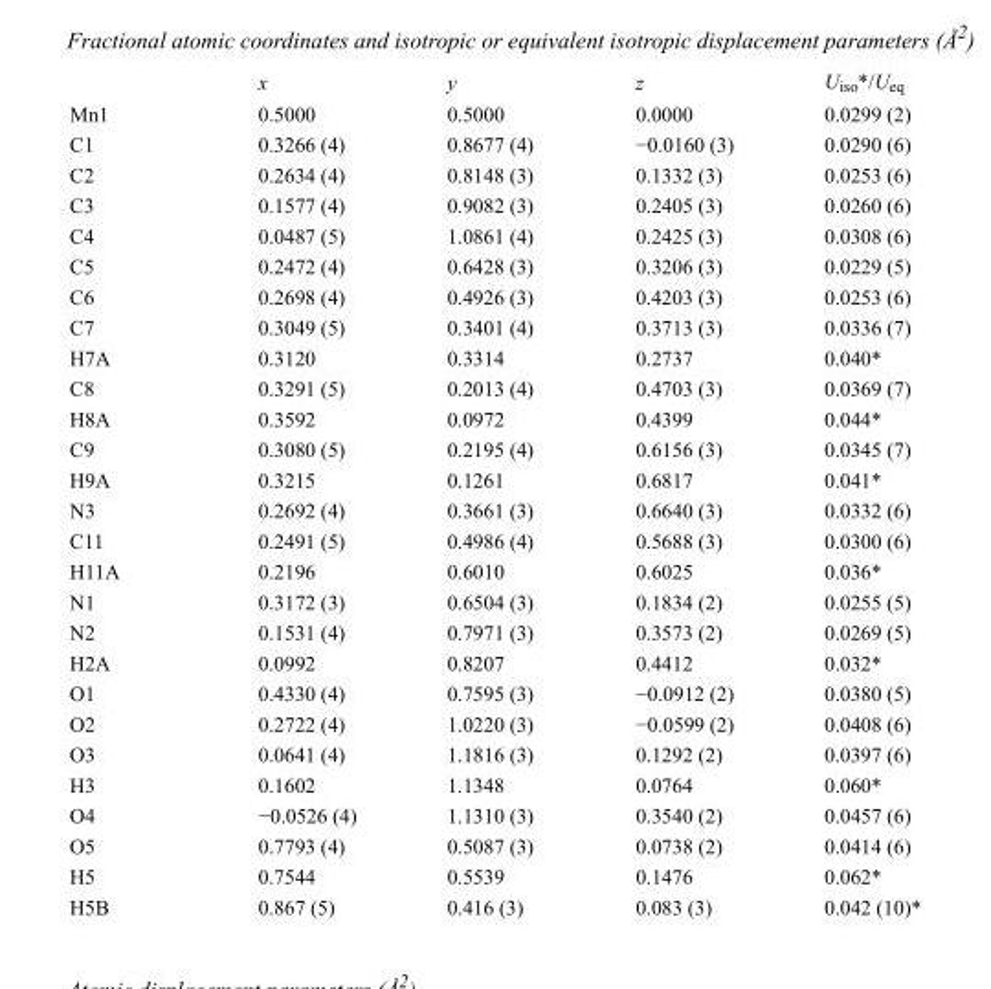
<table><thead><tr><td></td><td>x</td><td>y</td><td>z</td><td>U<sub>iso</sub>*/U<sub>eq</sub></td></tr></thead><tbody><tr><td>Mn1</td><td>0.5000</td><td>0.5000</td><td>0.0000</td><td>0.0299 (2)</td></tr><tr><td>C1</td><td>0.3266 (4)</td><td>0.8677 (4)</td><td>−0.0160 (3)</td><td>0.0290 (6)</td></tr><tr><td>C2</td><td>0.2634 (4)</td><td>0.8148 (3)</td><td>0.1332 (3)</td><td>0.0253 (6)</td></tr><tr><td>C3</td><td>0.1577 (4)</td><td>0.9082 (3)</td><td>0.2405 (3)</td><td>0.0260 (6)</td></tr><tr><td>C4</td><td>0.0487 (5)</td><td>1.0861 (4)</td><td>0.2425 (3)</td><td>0.0308 (6)</td></tr><tr><td>C5</td><td>0.2472 (4)</td><td>0.6428 (3)</td><td>0.3206 (3)</td><td>0.0229 (5)</td></tr><tr><td>C6</td><td>0.2698 (4)</td><td>0.4926 (3)</td><td>0.4203 (3)</td><td>0.0253 (6)</td></tr><tr><td>C7</td><td>0.3049 (5)</td><td>0.3401 (4)</td><td>0.3713 (3)</td><td>0.0336 (7)</td></tr><tr><td>H7A</td><td>0.3120</td><td>0.3314</td><td>0.2737</td><td>0.040*</td></tr><tr><td>C8</td><td>0.3291 (5)</td><td>0.2013 (4)</td><td>0.4703 (3)</td><td>0.0369 (7)</td></tr><tr><td>H8A</td><td>0.3592</td><td>0.0972</td><td>0.4399</td><td>0.044*</td></tr><tr><td>C9</td><td>0.3080 (5)</td><td>0.2195 (4)</td><td>0.6156 (3)</td><td>0.0345 (7)</td></tr><tr><td>H9A</td><td>0.3215</td><td>0.1261</td><td>0.6817</td><td>0.041*</td></tr><tr><td>N3</td><td>0.2692 (4)</td><td>0.3661 (3)</td><td>0.6640 (3)</td><td>0.0332 (6)</td></tr><tr><td>C11</td><td>0.2491 (5)</td><td>0.4986 (4)</td><td>0.5688 (3)</td><td>0.0300 (6)</td></tr><tr><td>H11A</td><td>0.2196</td><td>0.6010</td><td>0.6025</td><td>0.036*</td></tr><tr><td>N1</td><td>0.3172 (3)</td><td>0.6504 (3)</td><td>0.1834 (2)</td><td>0.0255 (5)</td></tr><tr><td>N2</td><td>0.1531 (4)</td><td>0.7971 (3)</td><td>0.3573 (2)</td><td>0.0269 (5)</td></tr><tr><td>H2A</td><td>0.0992</td><td>0.8207</td><td>0.4412</td><td>0.032*</td></tr><tr><td>O1</td><td>0.4330 (4)</td><td>0.7595 (3)</td><td>−0.0912 (2)</td><td>0.0380 (5)</td></tr><tr><td>O2</td><td>0.2722 (4)</td><td>1.0220 (3)</td><td>−0.0599 (2)</td><td>0.0408 (6)</td></tr><tr><td>O3</td><td>0.0641 (4)</td><td>1.1816 (3)</td><td>0.1292 (2)</td><td>0.0397 (6)</td></tr><tr><td>H3</td><td>0.1602</td><td>1.1348</td><td>0.0764</td><td>0.060*</td></tr><tr><td>O4</td><td>−0.0526 (4)</td><td>1.1310 (3)</td><td>0.3540 (2)</td><td>0.0457 (6)</td></tr><tr><td>O5</td><td>0.7793 (4)</td><td>0.5087 (3)</td><td>0.0738 (2)</td><td>0.0414 (6)</td></tr><tr><td>H5</td><td>0.7544</td><td>0.5539</td><td>0.1476</td><td>0.062*</td></tr><tr><td>H5B</td><td>0.867 (5)</td><td>0.416 (3)</td><td>0.083 (3)</td><td>0.042 (10)*</td></tr></tbody></table>